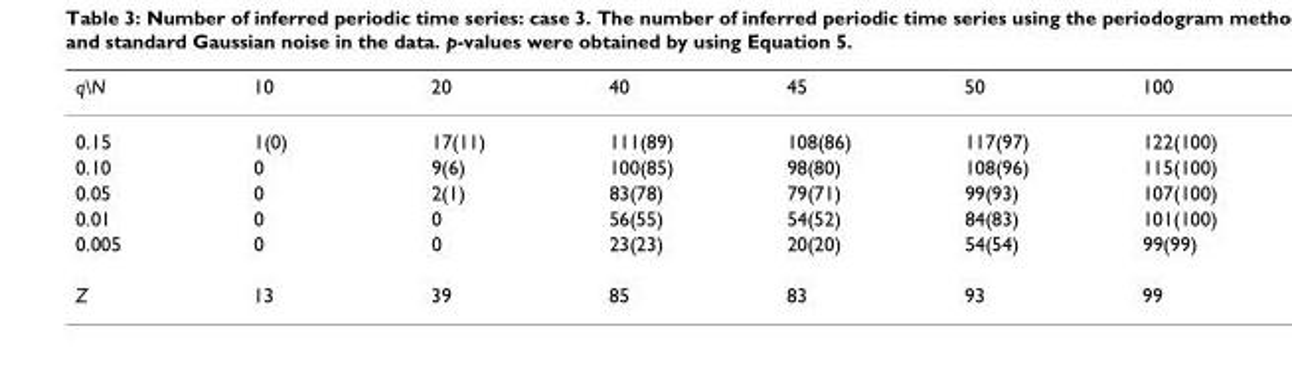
<table><thead><tr><td>q\N</td><td>10</td><td>20</td><td>40</td><td>45</td><td>50</td><td>100</td></tr></thead><tbody><tr><td>0.15</td><td>1(0)</td><td>17(11)</td><td>111(89)</td><td>108(86)</td><td>117(97)</td><td>122(100)</td></tr><tr><td>0.10</td><td>0</td><td>9(6)</td><td>100(85)</td><td>98(80)</td><td>108(96)</td><td>115(100)</td></tr><tr><td>0.05</td><td>0</td><td>2(1)</td><td>83(78)</td><td>79(71)</td><td>99(93)</td><td>107(100)</td></tr><tr><td>0.01</td><td>0</td><td>0</td><td>56(55)</td><td>54(52)</td><td>84(83)</td><td>101(100)</td></tr><tr><td>0.005</td><td>0</td><td>0</td><td>23(23)</td><td>20(20)</td><td>54(54)</td><td>99(99)</td></tr><tr><td>Z</td><td>13</td><td>39</td><td>85</td><td>83</td><td>93</td><td>99</td></tr></tbody></table>